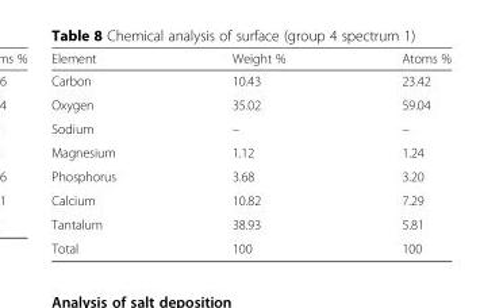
<table><thead><tr><td>Element</td><td>Weight %</td><td>Atoms %</td></tr></thead><tbody><tr><td>Carbon</td><td>10.43</td><td>23.42</td></tr><tr><td>Oxygen</td><td>35.02</td><td>59.04</td></tr><tr><td>Sodium</td><td>–</td><td>–</td></tr><tr><td>Magnesium</td><td>1.12</td><td>1.24</td></tr><tr><td>Phosphorus</td><td>3.68</td><td>3.20</td></tr><tr><td>Calcium</td><td>10.82</td><td>7.29</td></tr><tr><td>Tantalum</td><td>38.93</td><td>5.81</td></tr><tr><td>Total</td><td>100</td><td>100</td></tr></tbody></table>